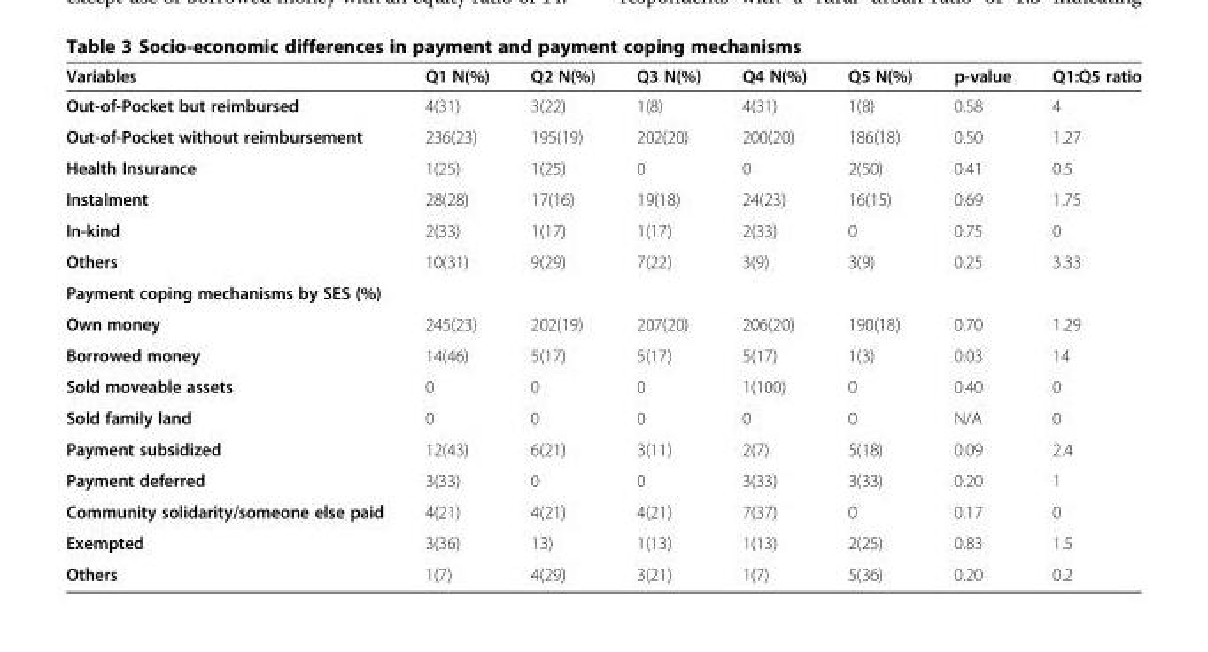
<table><thead><tr><td>Variables</td><td>Q1 N(%)</td><td>Q2 N(%)</td><td>Q3 N(%)</td><td>Q4 N(%)</td><td>Q5 N(%)</td><td>p-value</td><td>Q1:Q5 ratio</td></tr></thead><tbody><tr><td>Out-of-Pocket but reimbursed</td><td>4(31)</td><td>3(22)</td><td>1(8)</td><td>4(31)</td><td>1(8)</td><td>0.58</td><td>4</td></tr><tr><td>Out-of-Pocket without reimbursement</td><td>236(23)</td><td>195(19)</td><td>202(20)</td><td>200(20)</td><td>186(18)</td><td>0.50</td><td>1.27</td></tr><tr><td>Health Insurance</td><td>1(25)</td><td>1(25)</td><td>0</td><td>0</td><td>2(50)</td><td>0.41</td><td>0.5</td></tr><tr><td>Instalment</td><td>28(28)</td><td>17(16)</td><td>19(18)</td><td>24(23)</td><td>16(15)</td><td>0.69</td><td>1.75</td></tr><tr><td>In-kind</td><td>2(33)</td><td>1(17)</td><td>1(17)</td><td>2(33)</td><td>0</td><td>0.75</td><td>0</td></tr><tr><td>Others</td><td>10(31)</td><td>9(29)</td><td>7(22)</td><td>3(9)</td><td>3(9)</td><td>0.25</td><td>3.33</td></tr><tr><td colspan="8">Payment coping mechanisms by SES (%)</td></tr><tr><td>Own money</td><td>245(23)</td><td>202(19)</td><td>207(20)</td><td>206(20)</td><td>190(18)</td><td>0.70</td><td>1.29</td></tr><tr><td>Borrowed money</td><td>14(46)</td><td>5(17)</td><td>5(17)</td><td>5(17)</td><td>1(3)</td><td>0.03</td><td>14</td></tr><tr><td>Sold moveable assets</td><td>0</td><td>0</td><td>0</td><td>1(100)</td><td>0</td><td>0.40</td><td>0</td></tr><tr><td>Sold family land</td><td>0</td><td>0</td><td>0</td><td>0</td><td>0</td><td>N/A</td><td>0</td></tr><tr><td>Payment subsidized</td><td>12(43)</td><td>6(21)</td><td>3(11)</td><td>2(7)</td><td>5(18)</td><td>0.09</td><td>2.4</td></tr><tr><td>Payment deferred</td><td>3(33)</td><td>0</td><td>0</td><td>3(33)</td><td>3(33)</td><td>0.20</td><td>1</td></tr><tr><td>Community solidarity/someone else paid</td><td>4(21)</td><td>4(21)</td><td>4(21)</td><td>7(37)</td><td>0</td><td>0.17</td><td>0</td></tr><tr><td>Exempted</td><td>3(36)</td><td>13)</td><td>1(13)</td><td>1(13)</td><td>2(25)</td><td>0.83</td><td>1.5</td></tr><tr><td>Others</td><td>1(7)</td><td>4(29)</td><td>3(21)</td><td>1(7)</td><td>5(36)</td><td>0.20</td><td>0.2</td></tr></tbody></table>